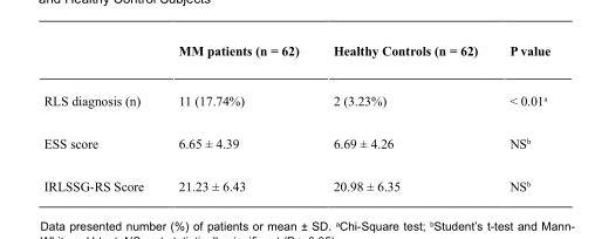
<table><thead><tr><td></td><td>MM patients (n = 62)</td><td>Healthy Controls (n = 62)</td><td>P value</td></tr></thead><tbody><tr><td>RLS diagnosis (n)</td><td>11 (17.74%)</td><td>2 (3.23%)</td><td>&lt; 0.01<sup>a</sup></td></tr><tr><td>ESS score</td><td>6.65 ± 4.39</td><td>6.69 ± 4.26</td><td>NS<sup>b</sup></td></tr><tr><td>IRLSSG-RS Score</td><td>21.23 ± 6.43</td><td>20.98 ± 6.35</td><td>NS<sup>b</sup></td></tr></tbody></table>